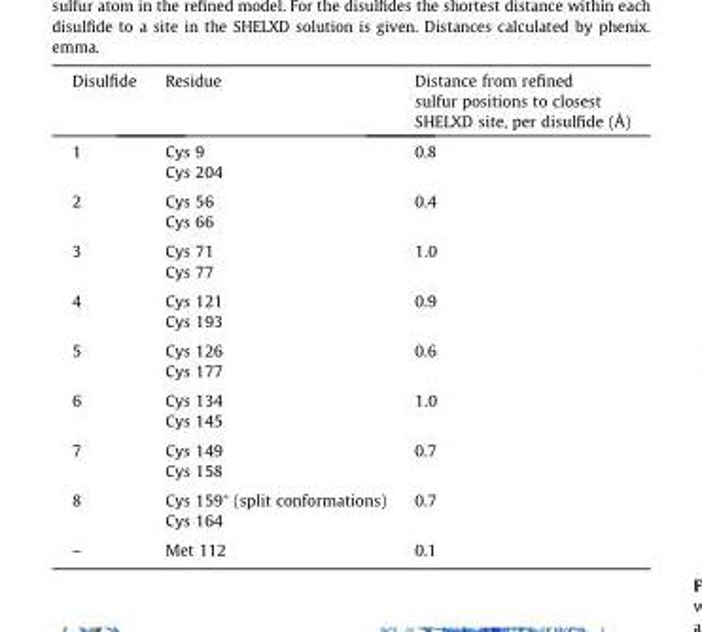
<table><thead><tr><td>Disulfide</td><td>Residue</td><td>Distance from refined sulfur positions to closest SHELXD site, per disulfide (Å)</td></tr></thead><tbody><tr><td rowspan="2">1</td><td>Cys 9</td><td rowspan="2">0.8</td></tr><tr><td>Cys 204</td></tr><tr><td rowspan="2">2</td><td>Cys 56</td><td rowspan="2">0.4</td></tr><tr><td>Cys 66</td></tr><tr><td rowspan="2">3</td><td>Cys 71</td><td rowspan="2">1.0</td></tr><tr><td>Cys 77</td></tr><tr><td rowspan="2">4</td><td>Cys 121</td><td rowspan="2">0.9</td></tr><tr><td>Cys 193</td></tr><tr><td rowspan="2">5</td><td>Cys 126</td><td rowspan="2">0.6</td></tr><tr><td>Cys 177</td></tr><tr><td rowspan="2">6</td><td>Cys 134</td><td rowspan="2">1.0</td></tr><tr><td>Cys 145</td></tr><tr><td rowspan="2">7</td><td>Cys 149</td><td rowspan="2">0.7</td></tr><tr><td>Cys 158</td></tr><tr><td rowspan="2">8</td><td>Cys 159⁄ (split conformations)</td><td rowspan="2">0.7</td></tr><tr><td>Cys 164</td></tr><tr><td>–</td><td>Met 112</td><td>0.1</td></tr></tbody></table>